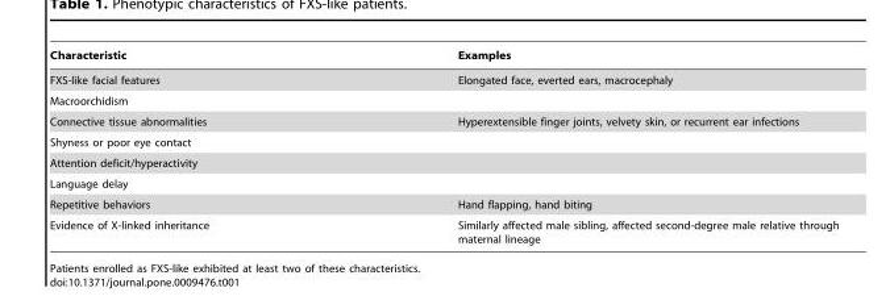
<table><thead><tr><td>Characteristic</td><td>Examples</td></tr></thead><tbody><tr><td>FXS-like facial features</td><td>Elongated face, everted ears, macrocephaly</td></tr><tr><td colspan="2">Macroorchidism</td></tr><tr><td>Connective tissue abnormalities</td><td>Hyperextensible finger joints, velvety skin, or recurrent ear infections</td></tr><tr><td colspan="2">Shyness or poor eye contact</td></tr><tr><td colspan="2">Attention deficit/hyperactivity</td></tr><tr><td colspan="2">Language delay</td></tr><tr><td>Repetitive behaviors</td><td>Hand flapping, hand biting</td></tr><tr><td>Evidence of X-linked inheritance</td><td>Similarly affected male sibling, affected second-degree male relative through maternal lineage</td></tr></tbody></table>